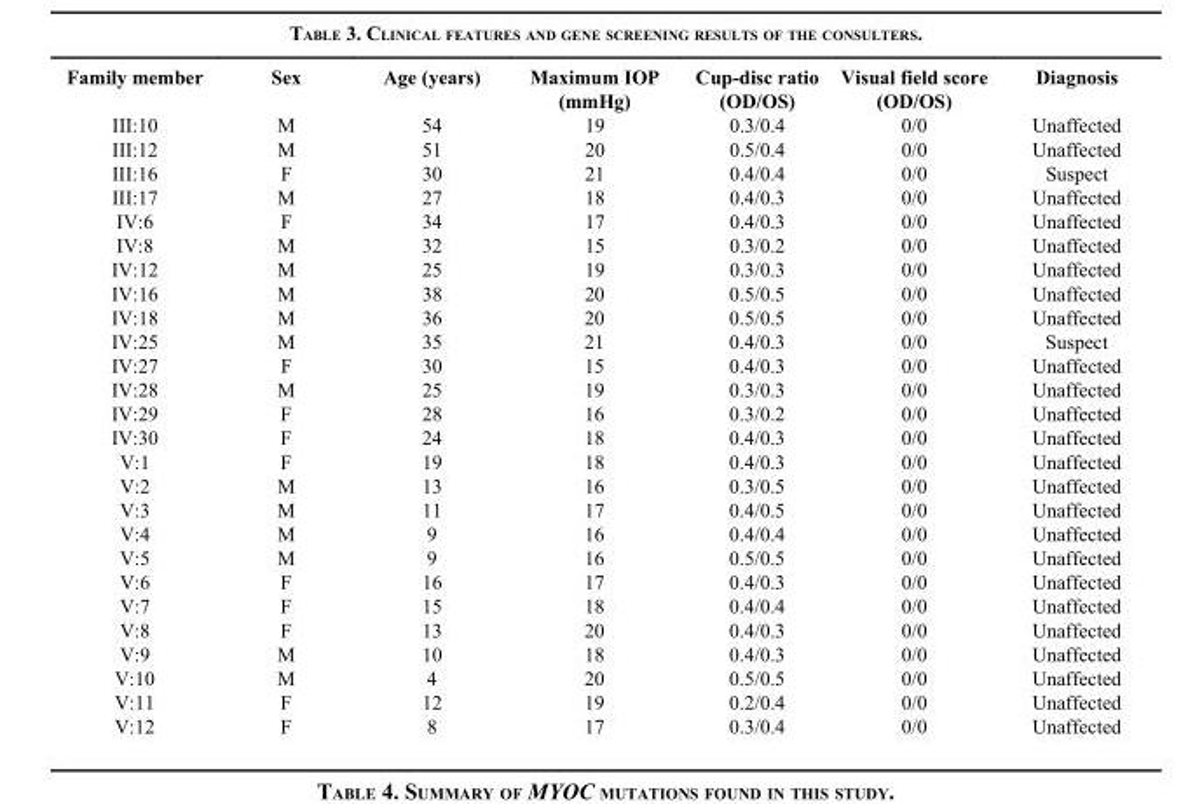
<table><thead><tr><td>Family member</td><td>Sex</td><td>Age (years)</td><td>Maximum IOP (mmHg)</td><td>Cup-disc ratio (OD/OS)</td><td>Visual field score (OD/OS)</td><td>Diagnosis</td></tr></thead><tbody><tr><td>III:10</td><td>M</td><td>54</td><td>19</td><td>0.3/0.4</td><td>0/0</td><td>Unaffected</td></tr><tr><td>III:12</td><td>M</td><td>51</td><td>20</td><td>0.5/0.4</td><td>0/0</td><td>Unaffected</td></tr><tr><td>III:16</td><td>F</td><td>30</td><td>21</td><td>0.4/0.4</td><td>0/0</td><td>Suspect</td></tr><tr><td>III:17</td><td>M</td><td>27</td><td>18</td><td>0.4/0.3</td><td>0/0</td><td>Unaffected</td></tr><tr><td>IV:6</td><td>F</td><td>34</td><td>17</td><td>0.4/0.3</td><td>0/0</td><td>Unaffected</td></tr><tr><td>IV:8</td><td>M</td><td>32</td><td>15</td><td>0.3/0.2</td><td>0/0</td><td>Unaffected</td></tr><tr><td>IV:12</td><td>M</td><td>25</td><td>19</td><td>0.3/0.3</td><td>0/0</td><td>Unaffected</td></tr><tr><td>IV:16</td><td>M</td><td>38</td><td>20</td><td>0.5/0.5</td><td>0/0</td><td>Unaffected</td></tr><tr><td>IV:18</td><td>M</td><td>36</td><td>20</td><td>0.5/0.5</td><td>0/0</td><td>Unaffected</td></tr><tr><td>IV:25</td><td>M</td><td>35</td><td>21</td><td>0.4/0.3</td><td>0/0</td><td>Suspect</td></tr><tr><td>IV:27</td><td>F</td><td>30</td><td>15</td><td>0.4/0.3</td><td>0/0</td><td>Unaffected</td></tr><tr><td>IV:28</td><td>M</td><td>25</td><td>19</td><td>0.3/0.3</td><td>0/0</td><td>Unaffected</td></tr><tr><td>IV:29</td><td>F</td><td>28</td><td>16</td><td>0.3/0.2</td><td>0/0</td><td>Unaffected</td></tr><tr><td>IV:30</td><td>F</td><td>24</td><td>18</td><td>0.4/0.3</td><td>0/0</td><td>Unaffected</td></tr><tr><td>V:1</td><td>F</td><td>19</td><td>18</td><td>0.4/0.3</td><td>0/0</td><td>Unaffected</td></tr><tr><td>V:2</td><td>M</td><td>13</td><td>16</td><td>0.3/0.5</td><td>0/0</td><td>Unaffected</td></tr><tr><td>V:3</td><td>M</td><td>11</td><td>17</td><td>0.4/0.5</td><td>0/0</td><td>Unaffected</td></tr><tr><td>V:4</td><td>M</td><td>9</td><td>16</td><td>0.4/0.4</td><td>0/0</td><td>Unaffected</td></tr><tr><td>V:5</td><td>M</td><td>9</td><td>16</td><td>0.5/0.5</td><td>0/0</td><td>Unaffected</td></tr><tr><td>V:6</td><td>F</td><td>16</td><td>17</td><td>0.4/0.3</td><td>0/0</td><td>Unaffected</td></tr><tr><td>V:7</td><td>F</td><td>15</td><td>18</td><td>0.4/0.4</td><td>0/0</td><td>Unaffected</td></tr><tr><td>V:8</td><td>F</td><td>13</td><td>20</td><td>0.4/0.3</td><td>0/0</td><td>Unaffected</td></tr><tr><td>V:9</td><td>M</td><td>10</td><td>18</td><td>0.4/0.3</td><td>0/0</td><td>Unaffected</td></tr><tr><td>V:10</td><td>M</td><td>4</td><td>20</td><td>0.5/0.5</td><td>0/0</td><td>Unaffected</td></tr><tr><td>V:11</td><td>F</td><td>12</td><td>19</td><td>0.2/0.4</td><td>0/0</td><td>Unaffected</td></tr><tr><td>V:12</td><td>F</td><td>8</td><td>17</td><td>0.3/0.4</td><td>0/0</td><td>Unaffected</td></tr></tbody></table>